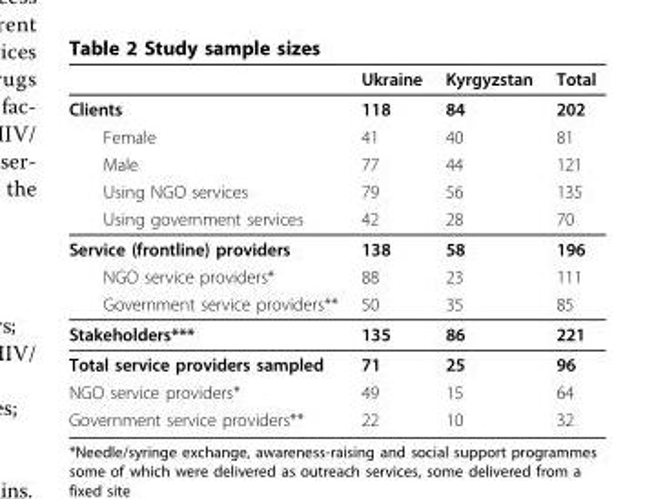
<table><thead><tr><td></td><td>Ukraine</td><td>Kyrgyzstan</td><td>Total</td></tr></thead><tbody><tr><td>Clients</td><td>118</td><td>84</td><td>202</td></tr><tr><td>Female</td><td>41</td><td>40</td><td>81</td></tr><tr><td>Male</td><td>77</td><td>44</td><td>121</td></tr><tr><td>Using NGO services</td><td>79</td><td>56</td><td>135</td></tr><tr><td>Using government services</td><td>42</td><td>28</td><td>70</td></tr><tr><td>Service (frontline) providers</td><td>138</td><td>58</td><td>196</td></tr><tr><td>NGO service providers*</td><td>88</td><td>23</td><td>111</td></tr><tr><td>Government service providers**</td><td>50</td><td>35</td><td>85</td></tr><tr><td>Stakeholders***</td><td>135</td><td>86</td><td>221</td></tr><tr><td>Total service providers sampled</td><td>71</td><td>25</td><td>96</td></tr><tr><td>NGO service providers*</td><td>49</td><td>15</td><td>64</td></tr><tr><td>Government service providers**</td><td>22</td><td>10</td><td>32</td></tr></tbody></table>